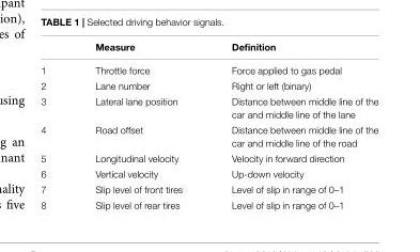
<table><thead><tr><td></td><td>Measure</td><td>Definition</td></tr></thead><tbody><tr><td>1</td><td>Throttle force</td><td>Force applied to gas pedal</td></tr><tr><td>2</td><td>Lane number</td><td>Right or left (binary)</td></tr><tr><td>3</td><td>Lateral lane position</td><td>Distance between middle line of the car and middle line of the lane</td></tr><tr><td>4</td><td>Road offset</td><td>Distance between middle line of the car and middle line of the road</td></tr><tr><td>5</td><td>Longitudinal velocity</td><td>Velocity in forward direction</td></tr><tr><td>6</td><td>Vertical velocity</td><td>Up-down velocity</td></tr><tr><td>7</td><td>Slip level of front tires</td><td>Level of slip in range of 0–1</td></tr><tr><td>8</td><td>Slip level of rear tires</td><td>Level of slip in range of 0–1</td></tr></tbody></table>